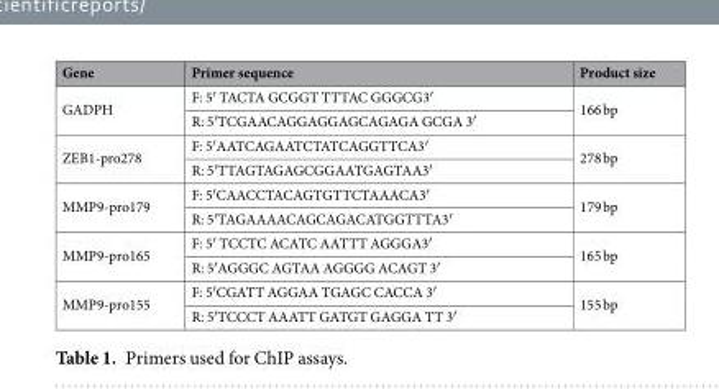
<table><thead><tr><td>Gene</td><td>Primer sequence</td><td>Product size</td></tr></thead><tbody><tr><td rowspan="2">GADPH</td><td>F: 5′ TACTA GCGGT TTTAC GGGCG3′</td><td rowspan="2">166 bp</td></tr><tr><td>R: 5′TCGAACAGGAGGAGCAGAGA GCGA 3′</td></tr><tr><td rowspan="2">ZEB1-pro278</td><td>F: 5′AATCAGAATCTATCAGGTTCA3′</td><td rowspan="2">278 bp</td></tr><tr><td>R: 5′TTAGTAGAGCGGAATGAGTAA3′</td></tr><tr><td rowspan="2">MMP9-pro179</td><td>F: 5′CAACCTACAGTGTTCTAAACA3′</td><td rowspan="2">179 bp</td></tr><tr><td>R: 5′TAGAAAACAGCAGACATGGTTTA3′</td></tr><tr><td rowspan="2">MMP9-pro165</td><td>F: 5′ TCCTC ACATC AATTT AGGGA3′</td><td rowspan="2">165 bp</td></tr><tr><td>R: 5′AGGGC AGTAA AGGGG ACAGT 3′</td></tr><tr><td rowspan="2">MMP9-pro155</td><td>F: 5′CGATT AGGAA TGAGC CACCA 3′</td><td rowspan="2">155 bp</td></tr><tr><td>R: 5′TCCCT AAATT GATGT GAGGA TT 3′</td></tr></tbody></table>